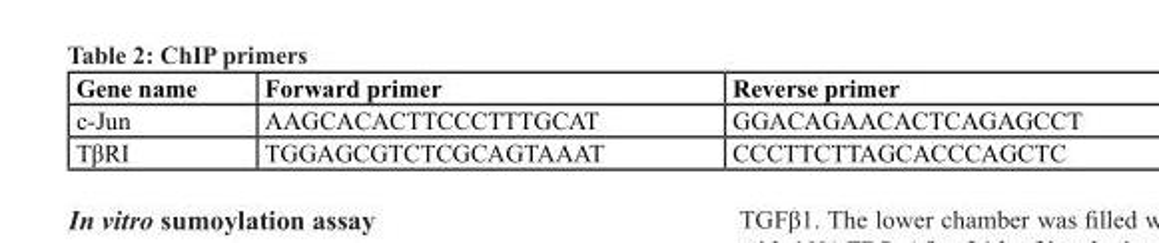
<table><thead><tr><td>Gene name</td><td>Forward primer</td><td>Reverse primer</td></tr></thead><tbody><tr><td>c-Jun</td><td>AAGCACACTTCCCTTTGCAT</td><td>GGACAGAACACTCAGAGCCT</td></tr><tr><td>TβRI</td><td>TGGAGCGTCTCGCAGTAAAT</td><td>CCCTTCTTAGCACCCAGCTC</td></tr></tbody></table>